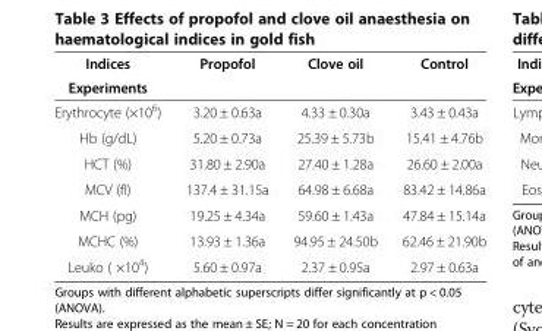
<table><thead><tr><td rowspan="2">Indices Experiments</td><td rowspan="2">Propofol</td><td rowspan="2">Clove oil</td><td rowspan="2">Control</td></tr><tr></tr></thead><tbody><tr><td>Erythrocyte (×10<sup>6</sup>)</td><td>3.20 ± 0.63a</td><td>4.33 ± 0.30a</td><td>3.43 ± 0.43a</td></tr><tr><td>Hb (g/dL)</td><td>5.20 ± 0.73a</td><td>25.39 ± 5.73b</td><td>15.41 ± 4.76b</td></tr><tr><td>HCT (%)</td><td>31.80 ± 2.90a</td><td>27.40 ± 1.28a</td><td>26.60 ± 2.00a</td></tr><tr><td>MCV (fl)</td><td>137.4 ± 31.15a</td><td>64.98 ± 6.68a</td><td>83.42 ± 14.86a</td></tr><tr><td>MCH (pg)</td><td>19.25 ± 4.34a</td><td>59.60 ± 1.43a</td><td>47.84 ± 15.14a</td></tr><tr><td>MCHC (%)</td><td>13.93 ± 1.36a</td><td>94.95 ± 24.50b</td><td>62.46 ± 21.90b</td></tr><tr><td>Leuko ( ×10<sup>4</sup>)</td><td>5.60 ± 0.97a</td><td>2.37 ± 0.95a</td><td>2.97 ± 0.63a</td></tr></tbody></table>